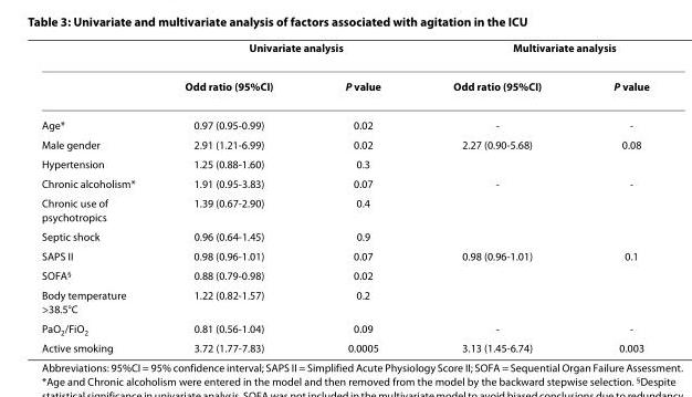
<table><thead><tr><td rowspan="2"></td><td colspan="2">Univariate analysis</td><td colspan="2">Multivariate analysis</td></tr><tr><td>Odd ratio (95%CI)</td><td>P value</td><td>Odd ratio (95%CI)</td><td>P value</td></tr></thead><tbody><tr><td>Age*</td><td>0.97 (0.95-0.99)</td><td>0.02</td><td>-</td><td>-</td></tr><tr><td>Male gender</td><td>2.91 (1.21-6.99)</td><td>0.02</td><td>2.27 (0.90-5.68)</td><td>0.08</td></tr><tr><td>Hypertension</td><td>1.25 (0.88-1.60)</td><td>0.3</td><td></td><td></td></tr><tr><td>Chronic alcoholism*</td><td>1.91 (0.95-3.83)</td><td>0.07</td><td>-</td><td>-</td></tr><tr><td>Chronic use of psychotropics</td><td>1.39 (0.67-2.90)</td><td>0.4</td><td></td><td></td></tr><tr><td>Septic shock</td><td>0.96 (0.64-1.45)</td><td>0.9</td><td></td><td></td></tr><tr><td>SAPS II</td><td>0.98 (0.96-1.01)</td><td>0.07</td><td>0.98 (0.96-1.01)</td><td>0.1</td></tr><tr><td>SOFA<sup>§</sup></td><td>0.88 (0.79-0.98)</td><td>0.02</td><td></td><td></td></tr><tr><td>Body temperature &gt;38.5°C</td><td>1.22 (0.82-1.57)</td><td>0.2</td><td></td><td></td></tr><tr><td>PaO<sub>2</sub>/FiO<sub>2</sub></td><td>0.81 (0.56-1.04)</td><td>0.09</td><td>-</td><td>-</td></tr><tr><td>Active smoking</td><td>3.72 (1.77-7.83)</td><td>0.0005</td><td>3.13 (1.45-6.74)</td><td>0.003</td></tr></tbody></table>